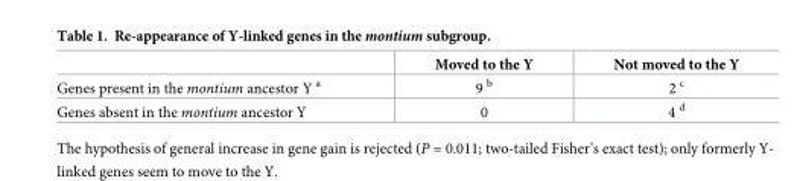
<table><thead><tr><td></td><td>Moved to the Y</td><td>Not moved to the Y</td></tr></thead><tbody><tr><td>Genes present in the montium ancestor Y <sup>a</sup></td><td>9 <sup>b</sup></td><td>2 <sup>c</sup></td></tr><tr><td>Genes absent in the montium ancestor Y</td><td>0</td><td>4 <sup>d</sup></td></tr></tbody></table>